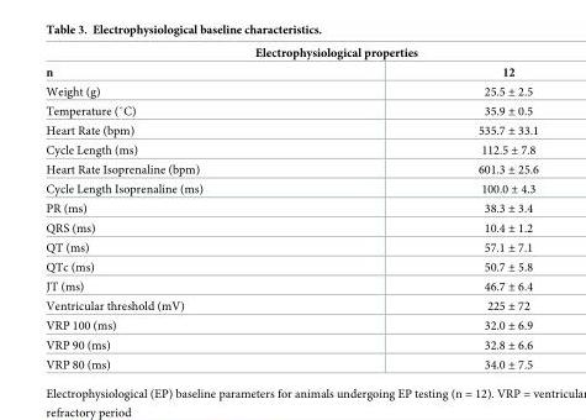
<table><thead><tr><td colspan="2">Electrophysiological properties</td></tr><tr><td>n</td><td>12</td></tr></thead><tbody><tr><td>Weight (g)</td><td>25.5 ± 2.5</td></tr><tr><td>Temperature (˚C)</td><td>35.9 ± 0.5</td></tr><tr><td>Heart Rate (bpm)</td><td>535.7 ± 33.1</td></tr><tr><td>Cycle Length (ms)</td><td>112.5 ± 7.8</td></tr><tr><td>Heart Rate Isoprenaline (bpm)</td><td>601.3 ± 25.6</td></tr><tr><td>Cycle Length Isoprenaline (ms)</td><td>100.0 ± 4.3</td></tr><tr><td>PR (ms)</td><td>38.3 ± 3.4</td></tr><tr><td>QRS (ms)</td><td>10.4 ± 1.2</td></tr><tr><td>QT (ms)</td><td>57.1 ± 7.1</td></tr><tr><td>QTc (ms)</td><td>50.7 ± 5.8</td></tr><tr><td>JT (ms)</td><td>46.7 ± 6.4</td></tr><tr><td>Ventricular threshold (mV)</td><td>225 ± 72</td></tr><tr><td>VRP 100 (ms)</td><td>32.0 ± 6.9</td></tr><tr><td>VRP 90 (ms)</td><td>32.8 ± 6.6</td></tr><tr><td>VRP 80 (ms)</td><td>34.0 ± 7.5</td></tr></tbody></table>